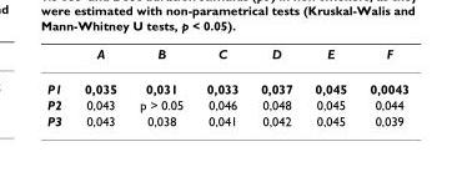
<table><thead><tr><td></td><td>A</td><td>B</td><td>C</td><td>D</td><td>E</td><td>F</td></tr></thead><tbody><tr><td>P1</td><td>0,035</td><td>0,031</td><td>0,033</td><td>0,037</td><td>0,045</td><td>0,0043</td></tr><tr><td>P2</td><td>0,043</td><td>p &gt; 0.05</td><td>0,046</td><td>0,048</td><td>0,045</td><td>0,044</td></tr><tr><td>P3</td><td>0,043</td><td>0,038</td><td>0,041</td><td>0,042</td><td>0,045</td><td>0,039</td></tr></tbody></table>